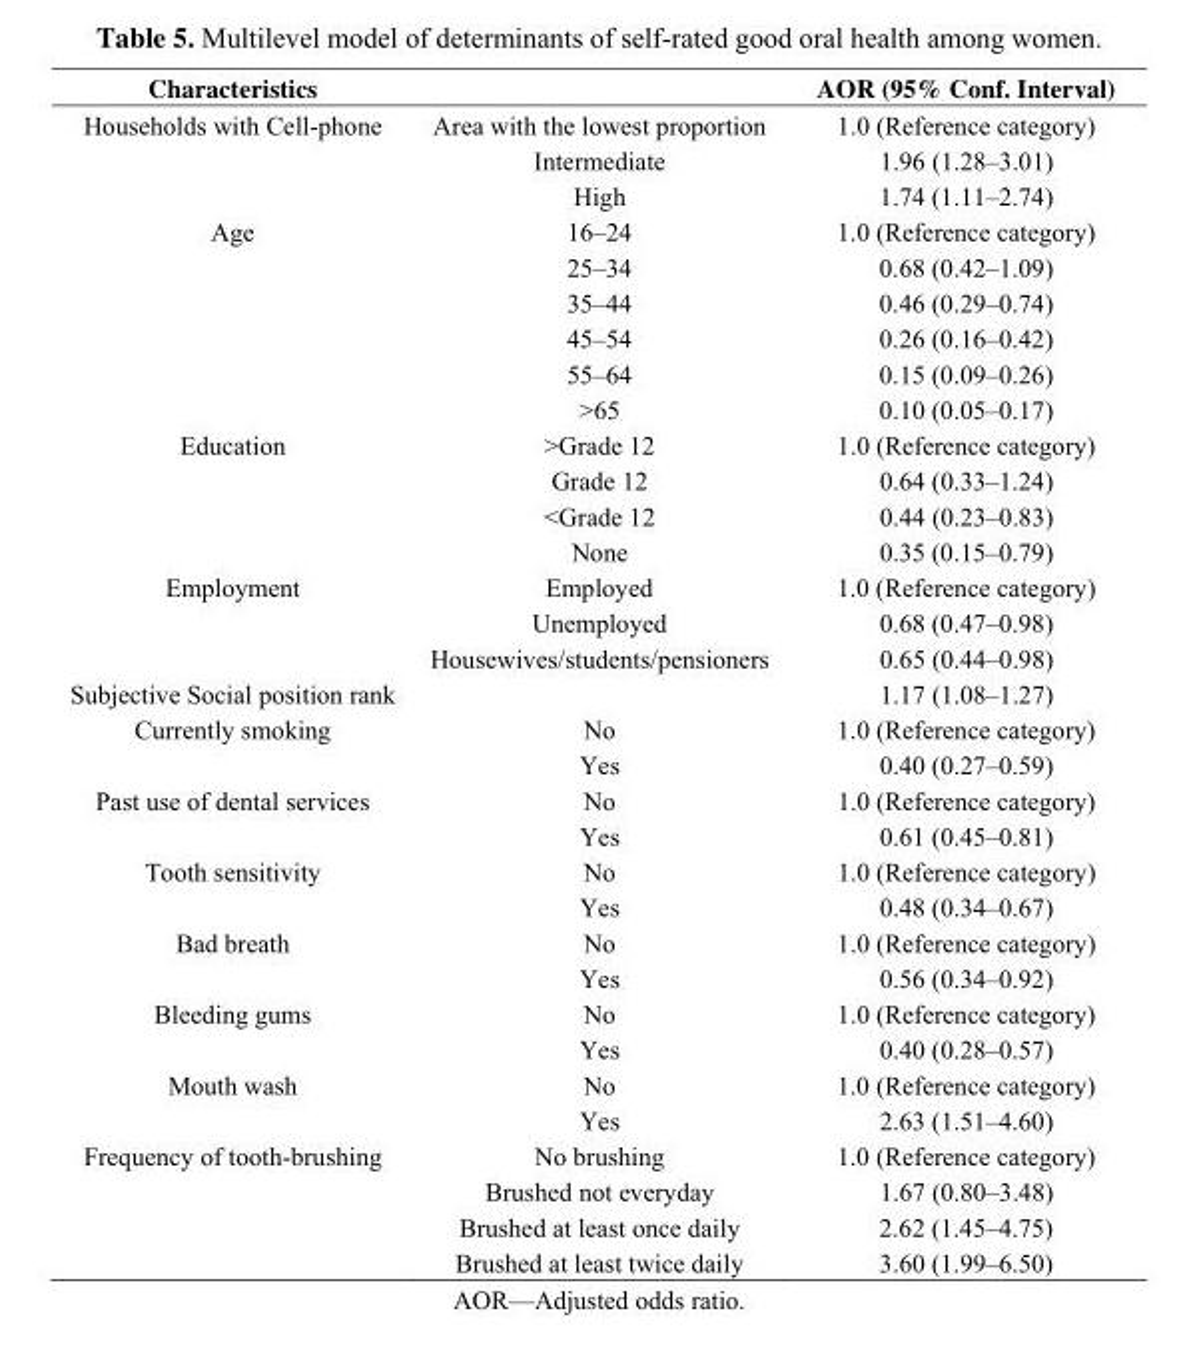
<table><thead><tr><td>Characteristics</td><td></td><td>AOR (95% Conf. Interval)</td></tr></thead><tbody><tr><td rowspan="3">Households with Cell-phone</td><td>Area with the lowest proportion</td><td>1.0 (Reference category)</td></tr><tr><td>Intermediate</td><td>1.96 (1.28–3.01)</td></tr><tr><td>High</td><td>1.74 (1.11–2.74)</td></tr><tr><td rowspan="6">Age</td><td>16–24</td><td>1.0 (Reference category)</td></tr><tr><td>25–34</td><td>0.68 (0.42–1.09)</td></tr><tr><td>35–44</td><td>0.46 (0.29–0.74)</td></tr><tr><td>45–54</td><td>0.26 (0.16–0.42)</td></tr><tr><td>55–64</td><td>0.15 (0.09–0.26)</td></tr><tr><td>&gt;65</td><td>0.10 (0.05–0.17)</td></tr><tr><td rowspan="4">Education</td><td>&gt;Grade 12</td><td>1.0 (Reference category)</td></tr><tr><td>Grade 12</td><td>0.64 (0.33–1.24)</td></tr><tr><td>&lt;Grade 12</td><td>0.44 (0.23–0.83)</td></tr><tr><td>None</td><td>0.35 (0.15–0.79)</td></tr><tr><td rowspan="3">Employment</td><td>Employed</td><td>1.0 (Reference category)</td></tr><tr><td>Unemployed</td><td>0.68 (0.47–0.98)</td></tr><tr><td>Housewives/students/pensioners</td><td>0.65 (0.44–0.98)</td></tr><tr><td>Subjective Social position rank</td><td></td><td>1.17 (1.08–1.27)</td></tr><tr><td rowspan="2">Currently smoking</td><td>No</td><td>1.0 (Reference category)</td></tr><tr><td>Yes</td><td>0.40 (0.27–0.59)</td></tr><tr><td rowspan="2">Past use of dental services</td><td>No</td><td>1.0 (Reference category)</td></tr><tr><td>Yes</td><td>0.61 (0.45–0.81)</td></tr><tr><td rowspan="2">Tooth sensitivity</td><td>No</td><td>1.0 (Reference category)</td></tr><tr><td>Yes</td><td>0.48 (0.34–0.67)</td></tr><tr><td rowspan="2">Bad breath</td><td>No</td><td>1.0 (Reference category)</td></tr><tr><td>Yes</td><td>0.56 (0.34–0.92)</td></tr><tr><td rowspan="2">Bleeding gums</td><td>No</td><td>1.0 (Reference category)</td></tr><tr><td>Yes</td><td>0.40 (0.28–0.57)</td></tr><tr><td rowspan="2">Mouth wash</td><td>No</td><td>1.0 (Reference category)</td></tr><tr><td>Yes</td><td>2.63 (1.51–4.60)</td></tr><tr><td rowspan="4">Frequency of tooth-brushing</td><td>No brushing</td><td>1.0 (Reference category)</td></tr><tr><td>Brushed not everyday</td><td>1.67 (0.80–3.48)</td></tr><tr><td>Brushed at least once daily</td><td>2.62 (1.45–4.75)</td></tr><tr><td>Brushed at least twice daily</td><td>3.60 (1.99–6.50)</td></tr></tbody></table>